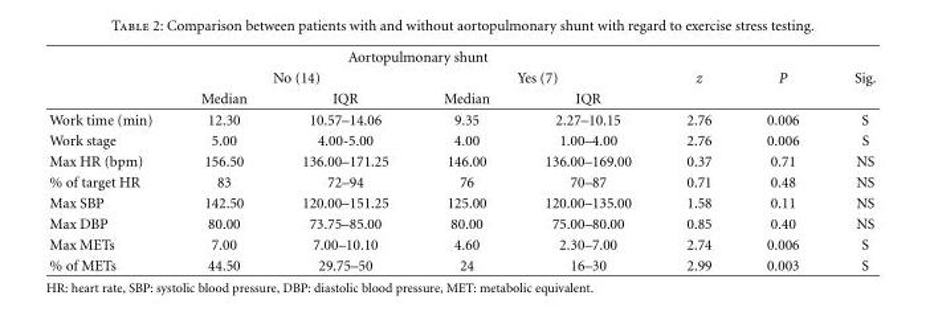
<table><thead><tr><td rowspan="3"></td><td colspan="4">Aortopulmonary shunt</td><td rowspan="3">z</td><td rowspan="3">P</td><td rowspan="3">Sig.</td></tr><tr><td colspan="2">No (14)</td><td colspan="2">Yes (7)</td></tr><tr><td>Median</td><td>IQR</td><td>Median</td><td>IQR</td></tr></thead><tbody><tr><td>Work time (min)</td><td>12.30</td><td>10.57–14.06</td><td>9.35</td><td>2.27–10.15</td><td>2.76</td><td>0.006</td><td>S</td></tr><tr><td>Work stage</td><td>5.00</td><td>4.00-5.00</td><td>4.00</td><td>1.00–4.00</td><td>2.76</td><td>0.006</td><td>S</td></tr><tr><td>Max HR (bpm)</td><td>156.50</td><td>136.00–171.25</td><td>146.00</td><td>136.00–169.00</td><td>0.37</td><td>0.71</td><td>NS</td></tr><tr><td>% of target HR</td><td>83</td><td>72–94</td><td>76</td><td>70–87</td><td>0.71</td><td>0.48</td><td>NS</td></tr><tr><td>Max SBP</td><td>142.50</td><td>120.00–151.25</td><td>125.00</td><td>120.00–135.00</td><td>1.58</td><td>0.11</td><td>NS</td></tr><tr><td>Max DBP</td><td>80.00</td><td>73.75–85.00</td><td>80.00</td><td>75.00–80.00</td><td>0.85</td><td>0.40</td><td>NS</td></tr><tr><td>Max METs</td><td>7.00</td><td>7.00–10.10</td><td>4.60</td><td>2.30–7.00</td><td>2.74</td><td>0.006</td><td>S</td></tr><tr><td>% of METs</td><td>44.50</td><td>29.75–50</td><td>24</td><td>16–30</td><td>2.99</td><td>0.003</td><td>S</td></tr></tbody></table>